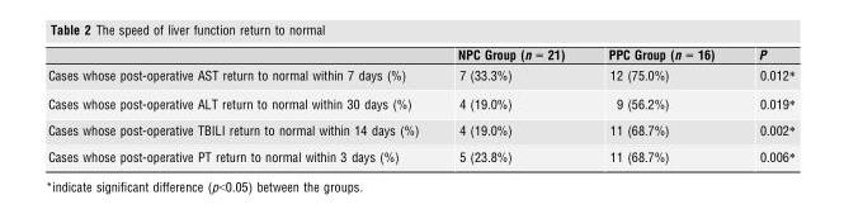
<table><thead><tr><td></td><td>NPC Group (n = 21)</td><td>PPC Group (n = 16)</td><td>P</td></tr></thead><tbody><tr><td>Cases whose post-operative AST return to normal within 7 days (%)</td><td>7 (33.3%)</td><td>12 (75.0%)</td><td>0.012*</td></tr><tr><td>Cases whose post-operative ALT return to normal within 30 days (%)</td><td>4 (19.0%)</td><td>9 (56.2%)</td><td>0.019*</td></tr><tr><td>Cases whose post-operative TBILI return to normal within 14 days (%)</td><td>4 (19.0%)</td><td>11 (68.7%)</td><td>0.002*</td></tr><tr><td>Cases whose post-operative PT return to normal within 3 days (%)</td><td>5 (23.8%)</td><td>11 (68.7%)</td><td>0.006*</td></tr></tbody></table>